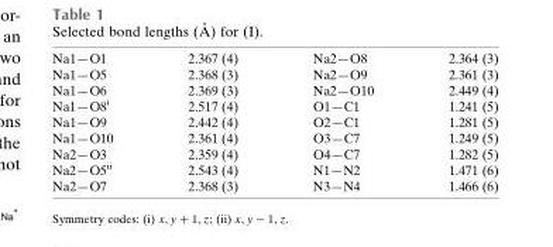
<table><tbody><tr><td>Na1—O1</td><td>2.367 (4)</td><td>Na2—O8</td><td>2.364 (3)</td></tr><tr><td>Na1—O5</td><td>2.368 (3)</td><td>Na2—O9</td><td>2.361 (3)</td></tr><tr><td>Na1—O6</td><td>2.369 (3)</td><td>Na2—O10</td><td>2.449 (4)</td></tr><tr><td>Na1—O8<sup>i</sup></td><td>2.517 (4)</td><td>O1—C1</td><td>1.241 (5)</td></tr><tr><td>Na1—O9</td><td>2.442 (4)</td><td>O2—C1</td><td>1.281 (5)</td></tr><tr><td>Na1—O10</td><td>2.361 (4)</td><td>O3—C7</td><td>1.249 (5)</td></tr><tr><td>Na2—O3</td><td>2.359 (4)</td><td>O4—C7</td><td>1.282 (5)</td></tr><tr><td>Na2—O5<sup>ii</sup></td><td>2.543 (4)</td><td>N1—N2</td><td>1.471 (6)</td></tr><tr><td>Na2—O7</td><td>2.368 (3)</td><td>N3—N4</td><td>1.466 (6)</td></tr></tbody></table>